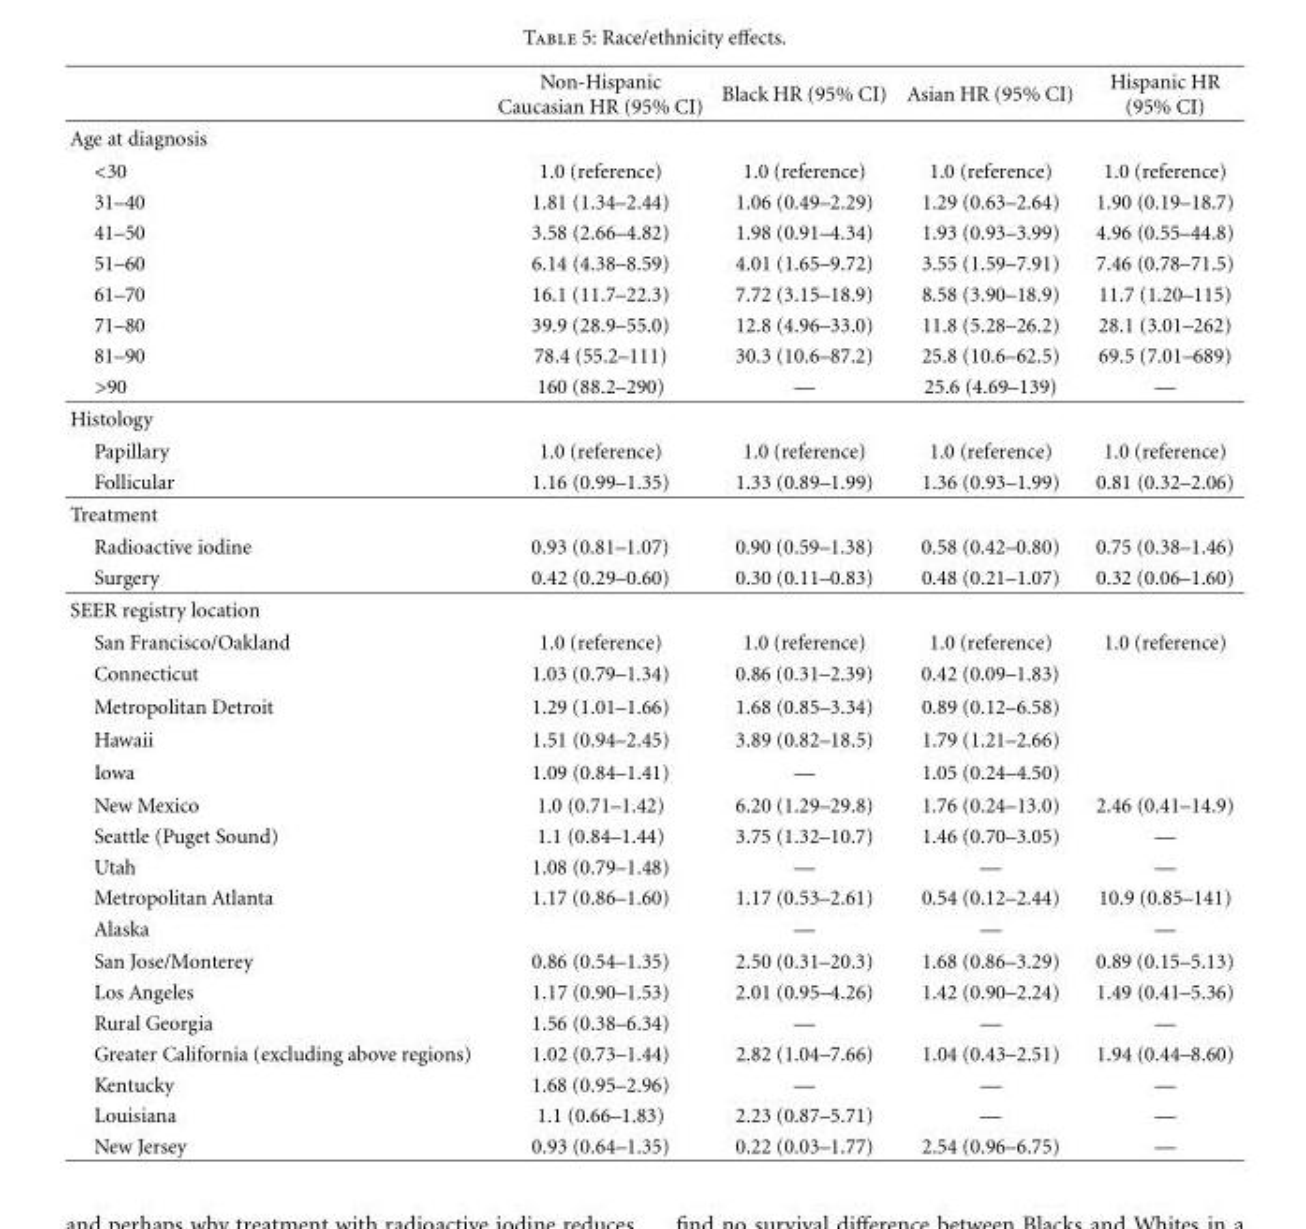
<table><thead><tr><td></td><td>Non-Hispanic Caucasian HR (95% CI)</td><td>Black HR (95% CI)</td><td>Asian HR (95% CI)</td><td>Hispanic HR (95% CI)</td></tr></thead><tbody><tr><td colspan="5">Age at diagnosis</td></tr><tr><td>&lt;30</td><td>1.0 (reference)</td><td>1.0 (reference)</td><td>1.0 (reference)</td><td>1.0 (reference)</td></tr><tr><td>31–40</td><td>1.81 (1.34–2.44)</td><td>1.06 (0.49–2.29)</td><td>1.29 (0.63–2.64)</td><td>1.90 (0.19–18.7)</td></tr><tr><td>41–50</td><td>3.58 (2.66–4.82)</td><td>1.98 (0.91–4.34)</td><td>1.93 (0.93–3.99)</td><td>4.96 (0.55–44.8)</td></tr><tr><td>51–60</td><td>6.14 (4.38–8.59)</td><td>4.01 (1.65–9.72)</td><td>3.55 (1.59–7.91)</td><td>7.46 (0.78–71.5)</td></tr><tr><td>61–70</td><td>16.1 (11.7–22.3)</td><td>7.72 (3.15–18.9)</td><td>8.58 (3.90–18.9)</td><td>11.7 (1.20–115)</td></tr><tr><td>71–80</td><td>39.9 (28.9–55.0)</td><td>12.8 (4.96–33.0)</td><td>11.8 (5.28–26.2)</td><td>28.1 (3.01–262)</td></tr><tr><td>81–90</td><td>78.4 (55.2–111)</td><td>30.3 (10.6–87.2)</td><td>25.8 (10.6–62.5)</td><td>69.5 (7.01–689)</td></tr><tr><td>&gt;90</td><td>160 (88.2–290)</td><td>—</td><td>25.6 (4.69–139)</td><td>—</td></tr><tr><td colspan="5">Histology</td></tr><tr><td>Papillary</td><td>1.0 (reference)</td><td>1.0 (reference)</td><td>1.0 (reference)</td><td>1.0 (reference)</td></tr><tr><td>Follicular</td><td>1.16 (0.99–1.35)</td><td>1.33 (0.89–1.99)</td><td>1.36 (0.93–1.99)</td><td>0.81 (0.32–2.06)</td></tr><tr><td colspan="5">Treatment</td></tr><tr><td>Radioactive iodine</td><td>0.93 (0.81–1.07)</td><td>0.90 (0.59–1.38)</td><td>0.58 (0.42–0.80)</td><td>0.75 (0.38–1.46)</td></tr><tr><td>Surgery</td><td>0.42 (0.29–0.60)</td><td>0.30 (0.11–0.83)</td><td>0.48 (0.21–1.07)</td><td>0.32 (0.06–1.60)</td></tr><tr><td colspan="5">SEER registry location</td></tr><tr><td>San Francisco/Oakland</td><td>1.0 (reference)</td><td>1.0 (reference)</td><td>1.0 (reference)</td><td>1.0 (reference)</td></tr><tr><td>Connecticut</td><td>1.03 (0.79–1.34)</td><td>0.86 (0.31–2.39)</td><td>0.42 (0.09–1.83)</td><td></td></tr><tr><td>Metropolitan Detroit</td><td>1.29 (1.01–1.66)</td><td>1.68 (0.85–3.34)</td><td>0.89 (0.12–6.58)</td><td></td></tr><tr><td>Hawaii</td><td>1.51 (0.94–2.45)</td><td>3.89 (0.82–18.5)</td><td>1.79 (1.21–2.66)</td><td></td></tr><tr><td>Iowa</td><td>1.09 (0.84–1.41)</td><td>—</td><td>1.05 (0.24–4.50)</td><td></td></tr><tr><td>New Mexico</td><td>1.0 (0.71–1.42)</td><td>6.20 (1.29–29.8)</td><td>1.76 (0.24–13.0)</td><td>2.46 (0.41–14.9)</td></tr><tr><td>Seattle (Puget Sound)</td><td>1.1 (0.84–1.44)</td><td>3.75 (1.32–10.7)</td><td>1.46 (0.70–3.05)</td><td>—</td></tr><tr><td>Utah</td><td>1.08 (0.79–1.48)</td><td>—</td><td>—</td><td>—</td></tr><tr><td>Metropolitan Atlanta</td><td>1.17 (0.86–1.60)</td><td>1.17 (0.53–2.61)</td><td>0.54 (0.12–2.44)</td><td>10.9 (0.85–141)</td></tr><tr><td>Alaska</td><td></td><td>—</td><td>—</td><td>—</td></tr><tr><td>San Jose/Monterey</td><td>0.86 (0.54–1.35)</td><td>2.50 (0.31–20.3)</td><td>1.68 (0.86–3.29)</td><td>0.89 (0.15–5.13)</td></tr><tr><td>Los Angeles</td><td>1.17 (0.90–1.53)</td><td>2.01 (0.95–4.26)</td><td>1.42 (0.90–2.24)</td><td>1.49 (0.41–5.36)</td></tr><tr><td>Rural Georgia</td><td>1.56 (0.38–6.34)</td><td>—</td><td>—</td><td>—</td></tr><tr><td>Greater California (excluding above regions)</td><td>1.02 (0.73–1.44)</td><td>2.82 (1.04–7.66)</td><td>1.04 (0.43–2.51)</td><td>1.94 (0.44–8.60)</td></tr><tr><td>Kentucky</td><td>1.68 (0.95–2.96)</td><td>—</td><td>—</td><td>—</td></tr><tr><td>Louisiana</td><td>1.1 (0.66–1.83)</td><td>2.23 (0.87–5.71)</td><td>—</td><td>—</td></tr><tr><td>New Jersey</td><td>0.93 (0.64–1.35)</td><td>0.22 (0.03–1.77)</td><td>2.54 (0.96–6.75)</td><td>—</td></tr></tbody></table>